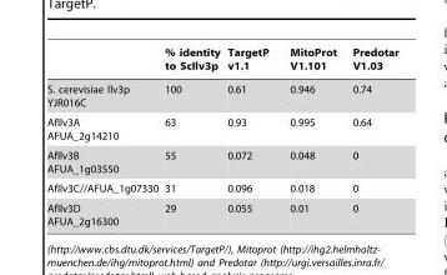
<table><thead><tr><td></td><td>% identity to ScIlv3p</td><td>TargetP v1.1</td><td>MitoProt V1.101</td><td>Predotar V1.03</td></tr></thead><tbody><tr><td>S. cerevisiae Ilv3p YJR016C</td><td>100</td><td>0.61</td><td>0.946</td><td>0.74</td></tr><tr><td>AfIlv3A AFUA_2g14210</td><td>63</td><td>0.93</td><td>0.995</td><td>0.64</td></tr><tr><td>AfIlv3B AFUA_1g03550</td><td>55</td><td>0.072</td><td>0.048</td><td>0</td></tr><tr><td>AfIlv3C//AFUA_1g07330</td><td>31</td><td>0.096</td><td>0.018</td><td>0</td></tr><tr><td>AfIlv3D AFUA_2g16300</td><td>29</td><td>0.055</td><td>0.01</td><td>0</td></tr></tbody></table>